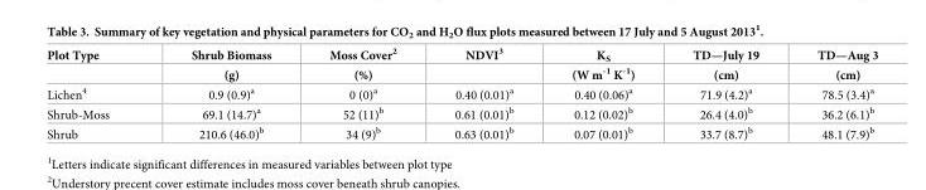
<table><thead><tr><td rowspan="2">Plot Type</td><td rowspan="2">Shrub Biomass (g)</td><td rowspan="2">Moss Cover<sup>2</sup> (%)</td><td rowspan="2">NDVI<sup>3</sup></td><td rowspan="2">K<sub>S</sub> (W m<sup>-1</sup> K<sup>-1</sup>)</td><td rowspan="2">TD—July 19 (cm)</td><td rowspan="2">TD—Aug 3 (cm)</td></tr><tr></tr></thead><tbody><tr><td>Lichen<sup>4</sup></td><td>0.9 (0.9)<sup>a</sup></td><td>0 (0)<sup>a</sup></td><td>0.40 (0.01)<sup>a</sup></td><td>0.40 (0.06)<sup>a</sup></td><td>71.9 (4.2)<sup>a</sup></td><td>78.5 (3.4)<sup>a</sup></td></tr><tr><td>Shrub-Moss</td><td>69.1 (14.7)<sup>a</sup></td><td>52 (11)<sup>b</sup></td><td>0.61 (0.01)<sup>b</sup></td><td>0.12 (0.02)<sup>b</sup></td><td>26.4 (4.0)<sup>b</sup></td><td>36.2 (6.1)<sup>b</sup></td></tr><tr><td>Shrub</td><td>210.6 (46.0)<sup>b</sup></td><td>34 (9)<sup>b</sup></td><td>0.63 (0.01)<sup>b</sup></td><td>0.07 (0.01)<sup>b</sup></td><td>33.7 (8.7)<sup>b</sup></td><td>48.1 (7.9)<sup>b</sup></td></tr></tbody></table>